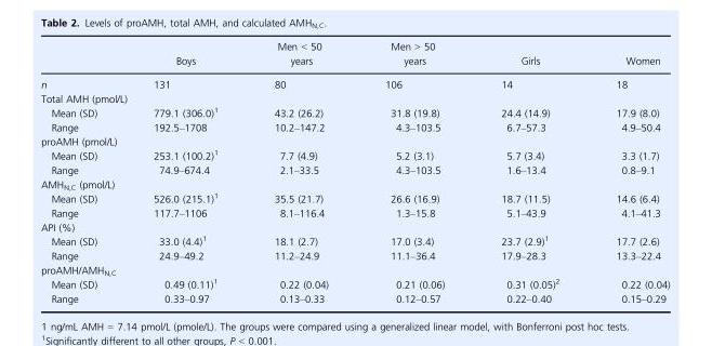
<table><thead><tr><td></td><td>Boys</td><td>Men &lt; 50 years</td><td>Men &gt; 50 years</td><td>Girls</td><td>Women</td></tr></thead><tbody><tr><td>n</td><td>131</td><td>80</td><td>106</td><td>14</td><td>18</td></tr><tr><td colspan="6">Total AMH (pmol/L)</td></tr><tr><td>Mean (SD)</td><td>779.1 (306.0)1</td><td>43.2 (26.2)</td><td>31.8 (19.8)</td><td>24.4 (14.9)</td><td>17.9 (8.0)</td></tr><tr><td>Range</td><td>192.5–1708</td><td>10.2–147.2</td><td>4.3–103.5</td><td>6.7–57.3</td><td>4.9–50.4</td></tr><tr><td colspan="6">proAMH (pmol/L)</td></tr><tr><td>Mean (SD)</td><td>253.1 (100.2)1</td><td>7.7 (4.9)</td><td>5.2 (3.1)</td><td>5.7 (3.4)</td><td>3.3 (1.7)</td></tr><tr><td>Range</td><td>74.9–674.4</td><td>2.1–33.5</td><td>4.3–103.5</td><td>1.6–13.4</td><td>0.8–9.1</td></tr><tr><td colspan="6">AMH<sub>N,C</sub> (pmol/L)</td></tr><tr><td>Mean (SD)</td><td>526.0 (215.1)1</td><td>35.5 (21.7)</td><td>26.6 (16.9)</td><td>18.7 (11.5)</td><td>14.6 (6.4)</td></tr><tr><td>Range</td><td>117.7–1106</td><td>8.1–116.4</td><td>1.3–15.8</td><td>5.1–43.9</td><td>4.1–41.3</td></tr><tr><td colspan="6">API (%)</td></tr><tr><td>Mean (SD)</td><td>33.0 (4.4)1</td><td>18.1 (2.7)</td><td>17.0 (3.4)</td><td>23.7 (2.9)1</td><td>17.7 (2.6)</td></tr><tr><td>Range</td><td>24.9–49.2</td><td>11.2–24.9</td><td>11.1–36.4</td><td>17.9–28.3</td><td>13.3–22.4</td></tr><tr><td colspan="6">proAMH/AMH<sub>N,C</sub></td></tr><tr><td>Mean (SD)</td><td>0.49 (0.11)1</td><td>0.22 (0.04)</td><td>0.21 (0.06)</td><td>0.31 (0.05)2</td><td>0.22 (0.04)</td></tr><tr><td>Range</td><td>0.33–0.97</td><td>0.13–0.33</td><td>0.12–0.57</td><td>0.22–0.40</td><td>0.15–0.29</td></tr></tbody></table>